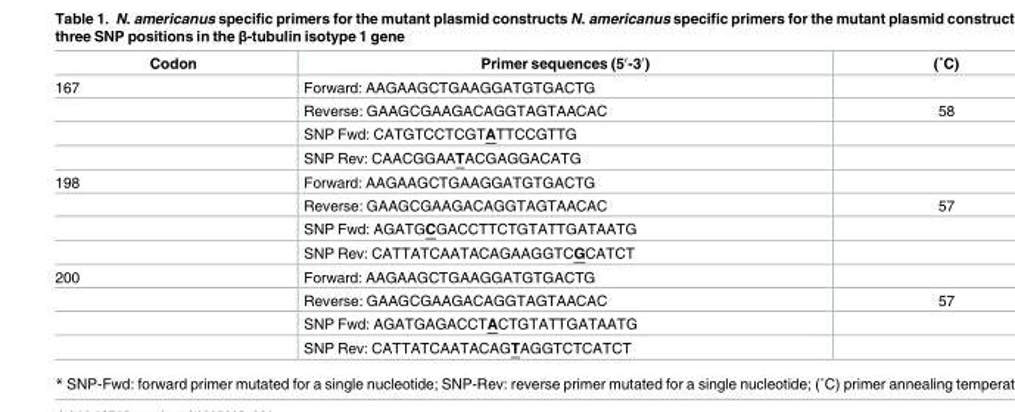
<table><thead><tr><td>Codon</td><td>Primer sequences (5′-3′)</td><td>(˚C)</td></tr></thead><tbody><tr><td rowspan="4">167</td><td>Forward: AAGAAGCTGAAGGATGTGACTG</td><td></td></tr><tr><td>Reverse: GAAGCGAAGACAGGTAGTAACAC</td><td>58</td></tr><tr><td>SNP Fwd: CATGTCCTCGTATTCCGTTG</td><td></td></tr><tr><td>SNP Rev: CAACGGAATACGAGGACATG</td><td></td></tr><tr><td rowspan="4">198</td><td>Forward: AAGAAGCTGAAGGATGTGACTG</td><td></td></tr><tr><td>Reverse: GAAGCGAAGACAGGTAGTAACAC</td><td>57</td></tr><tr><td>SNP Fwd: AGATGCGACCTTCTGTATTGATAATG</td><td></td></tr><tr><td>SNP Rev: CATTATCAATACAGAAGGTCGCATCT</td><td></td></tr><tr><td rowspan="4">200</td><td>Forward: AAGAAGCTGAAGGATGTGACTG</td><td></td></tr><tr><td>Reverse: GAAGCGAAGACAGGTAGTAACAC</td><td>57</td></tr><tr><td>SNP Fwd: AGATGAGACCTACTGTATTGATAATG</td><td></td></tr><tr><td>SNP Rev: CATTATCAATACAGTAGGTCTCATCT</td><td></td></tr></tbody></table>